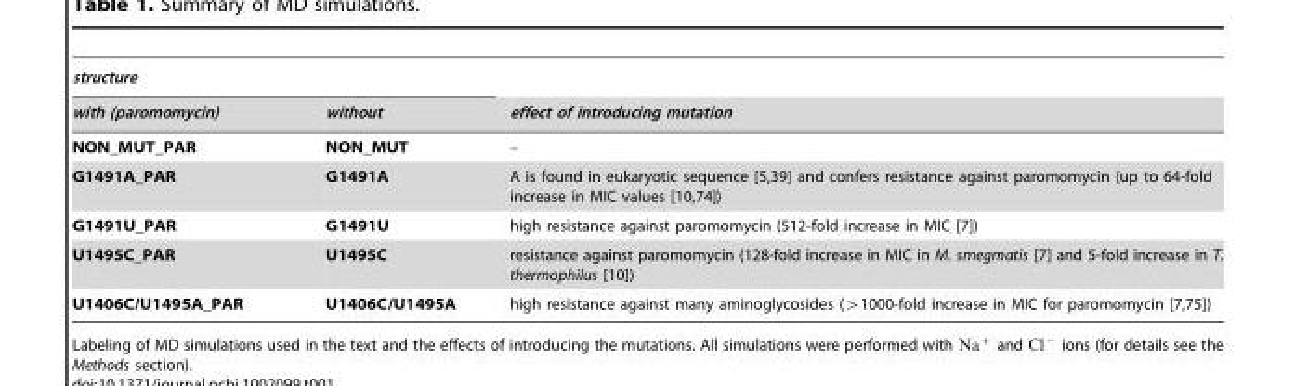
<table><thead><tr><td colspan="2">structure</td><td rowspan="2">effect of introducing mutation</td></tr><tr><td>with (paromomycin)</td><td>without</td></tr></thead><tbody><tr><td>NON_MUT_PAR</td><td>NON_MUT</td><td>–</td></tr><tr><td>G1491A_PAR</td><td>G1491A</td><td>A is found in eukaryotic sequence [5,39] and confers resistance against paromomycin (up to 64-fold increase in MIC values [10,74])</td></tr><tr><td>G1491U_PAR</td><td>G1491U</td><td>high resistance against paromomycin (512-fold increase in MIC [7])</td></tr><tr><td>U1495C_PAR</td><td>U1495C</td><td>resistance against paromomycin (128-fold increase in MIC in M. smegmatis [7] and 5-fold increase in T. thermophilus [10])</td></tr><tr><td>U1406C/U1495A_PAR</td><td>U1406C/U1495A</td><td>high resistance against many aminoglycosides (w1000-fold increase in MIC for paromomycin [7,75])</td></tr></tbody></table>